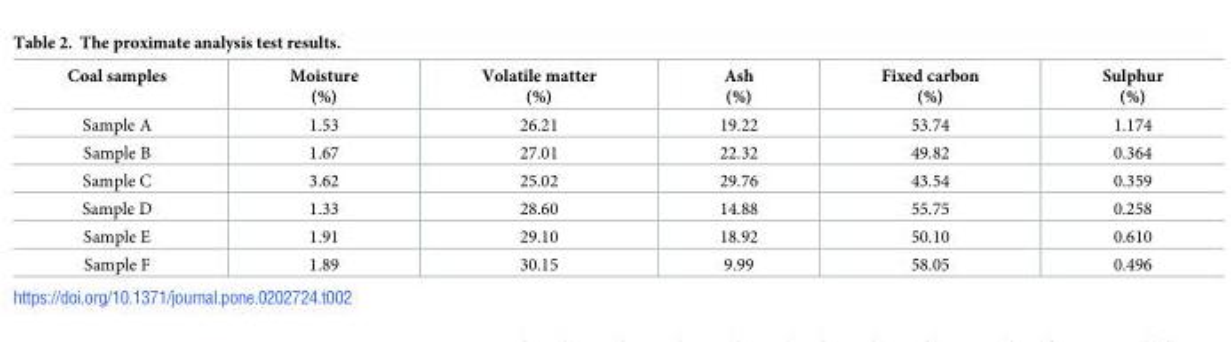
<table><thead><tr><td>Coal samples</td><td>Moisture (%)</td><td>Volatile matter (%)</td><td>Ash (%)</td><td>Fixed carbon (%)</td><td>Sulphur (%)</td></tr></thead><tbody><tr><td>Sample A</td><td>1.53</td><td>26.21</td><td>19.22</td><td>53.74</td><td>1.174</td></tr><tr><td>Sample B</td><td>1.67</td><td>27.01</td><td>22.32</td><td>49.82</td><td>0.364</td></tr><tr><td>Sample C</td><td>3.62</td><td>25.02</td><td>29.76</td><td>43.54</td><td>0.359</td></tr><tr><td>Sample D</td><td>1.33</td><td>28.60</td><td>14.88</td><td>55.75</td><td>0.258</td></tr><tr><td>Sample E</td><td>1.91</td><td>29.10</td><td>18.92</td><td>50.10</td><td>0.610</td></tr><tr><td>Sample F</td><td>1.89</td><td>30.15</td><td>9.99</td><td>58.05</td><td>0.496</td></tr></tbody></table>